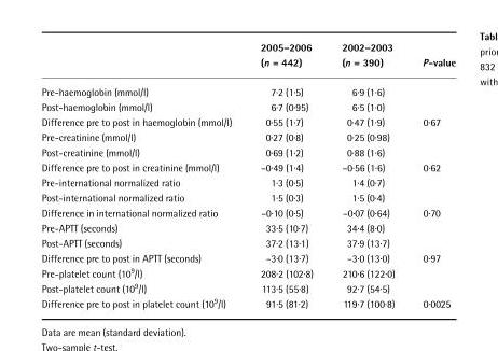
<table><thead><tr><td></td><td>2005–2006 (n = 442)</td><td>2002–2003 (n = 390)</td><td>P-value</td></tr></thead><tbody><tr><td>Pre-haemoglobin (mmol/l)</td><td>7·2 (1·5)</td><td>6·9 (1·6)</td><td></td></tr><tr><td>Post-haemoglobin (mmol/l)</td><td>6·7 (0·95)</td><td>6·5 (1·0)</td><td></td></tr><tr><td>Difference pre to post in haemoglobin (mmol/l)</td><td>0·55 (1·7)</td><td>0·47 (1·9)</td><td>0·67</td></tr><tr><td>Pre-creatinine (mmol/l)</td><td>0·27 (0·8)</td><td>0·25 (0·98)</td><td></td></tr><tr><td>Post-creatinine (mmol/l)</td><td>0·69 (1·2)</td><td>0·88 (1·6)</td><td></td></tr><tr><td>Difference pre to post in creatinine (mmol/l)</td><td>–0·49 (1·4)</td><td>–0·56 (1·6)</td><td>0·62</td></tr><tr><td>Pre-international normalized ratio</td><td>1·3 (0·5)</td><td>1·4 (0·7)</td><td></td></tr><tr><td>Post-international normalized ratio</td><td>1·5 (0·3)</td><td>1·5 (0·4)</td><td></td></tr><tr><td>Difference in international normalized ratio</td><td>–0·10 (0·5)</td><td>–0·07 (0·64)</td><td>0·70</td></tr><tr><td>Pre-APTT (seconds)</td><td>33·5 (10·7)</td><td>34·4 (8·0)</td><td></td></tr><tr><td>Post-APTT (seconds)</td><td>37·2 (13·1)</td><td>37·9 (13·7)</td><td></td></tr><tr><td>Difference pre to post in APTT (seconds)</td><td>–3·0 (13·7)</td><td>–3·0 (13·0)</td><td>0·97</td></tr><tr><td>Pre-platelet count (10<sup>9</sup>/l)</td><td>208·2 (102·8)</td><td>210·6 (122·0)</td><td></td></tr><tr><td>Post-platelet count (10<sup>9</sup>/l)</td><td>113·5 (55·8)</td><td>92·7 (54·5)</td><td></td></tr><tr><td>Difference pre to post in platelet count (10<sup>9</sup>/l)</td><td>91·5 (81·2)</td><td>119·7 (100·8)</td><td>0·0025</td></tr></tbody></table>